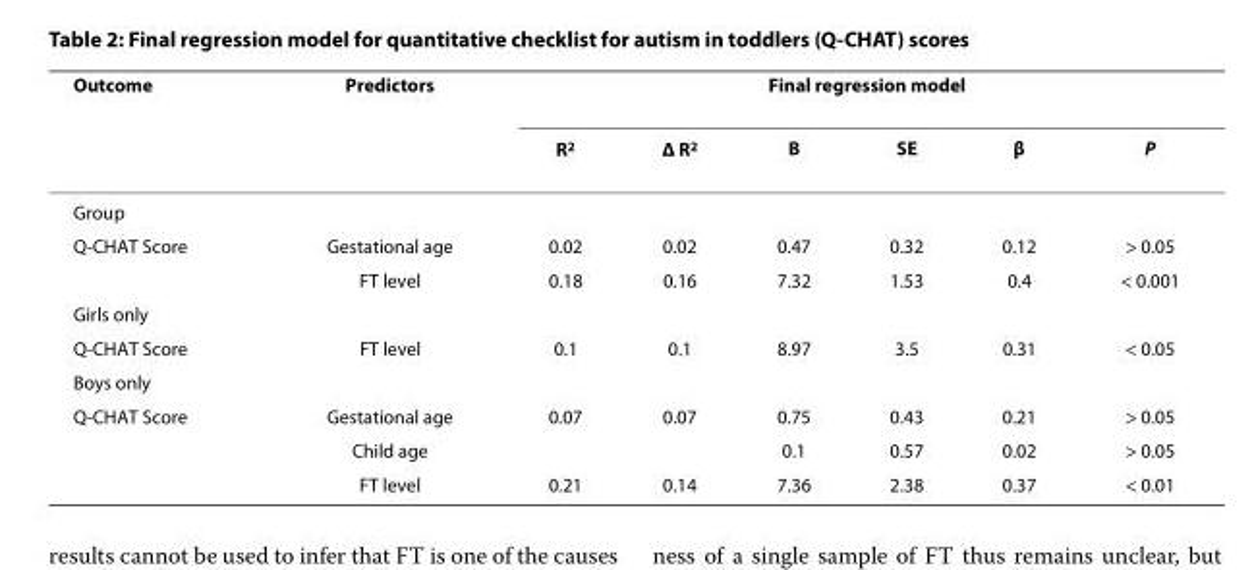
<table><thead><tr><td rowspan="2">Outcome</td><td rowspan="2">Predictors</td><td colspan="6">Final regression model</td></tr><tr><td>R<sup>2</sup></td><td>Δ R<sup>2</sup></td><td>B</td><td>SE</td><td>β</td><td>P</td></tr></thead><tbody><tr><td colspan="8">Group</td></tr><tr><td rowspan="2">Q-CHAT Score</td><td>Gestational age</td><td>0.02</td><td>0.02</td><td>0.47</td><td>0.32</td><td>0.12</td><td>&gt; 0.05</td></tr><tr><td>FT level</td><td>0.18</td><td>0.16</td><td>7.32</td><td>1.53</td><td>0.4</td><td>&lt; 0.001</td></tr><tr><td colspan="8">Girls only</td></tr><tr><td>Q-CHAT Score</td><td>FT level</td><td>0.1</td><td>0.1</td><td>8.97</td><td>3.5</td><td>0.31</td><td>&lt; 0.05</td></tr><tr><td colspan="8">Boys only</td></tr><tr><td rowspan="3">Q-CHAT Score</td><td>Gestational age</td><td>0.07</td><td>0.07</td><td>0.75</td><td>0.43</td><td>0.21</td><td>&gt; 0.05</td></tr><tr><td>Child age</td><td></td><td></td><td>0.1</td><td>0.57</td><td>0.02</td><td>&gt; 0.05</td></tr><tr><td>FT level</td><td>0.21</td><td>0.14</td><td>7.36</td><td>2.38</td><td>0.37</td><td>&lt; 0.01</td></tr></tbody></table>